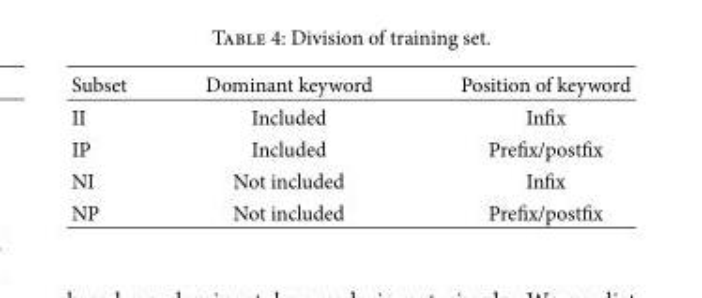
<table><thead><tr><td>Subset</td><td>Dominant keyword</td><td>Position of keyword</td></tr></thead><tbody><tr><td>II</td><td>Included</td><td>Infix</td></tr><tr><td>IP</td><td>Included</td><td>Prefix/postfix</td></tr><tr><td>NI</td><td>Not included</td><td>Infix</td></tr><tr><td>NP</td><td>Not included</td><td>Prefix/postfix</td></tr></tbody></table>